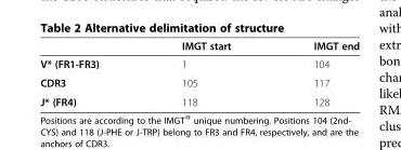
<table><thead><tr><td></td><td>IMGT start</td><td>IMGT end</td></tr></thead><tbody><tr><td>V* (FR1-FR3)</td><td>1</td><td>104</td></tr><tr><td>CDR3</td><td>105</td><td>117</td></tr><tr><td>J* (FR4)</td><td>118</td><td>128</td></tr></tbody></table>